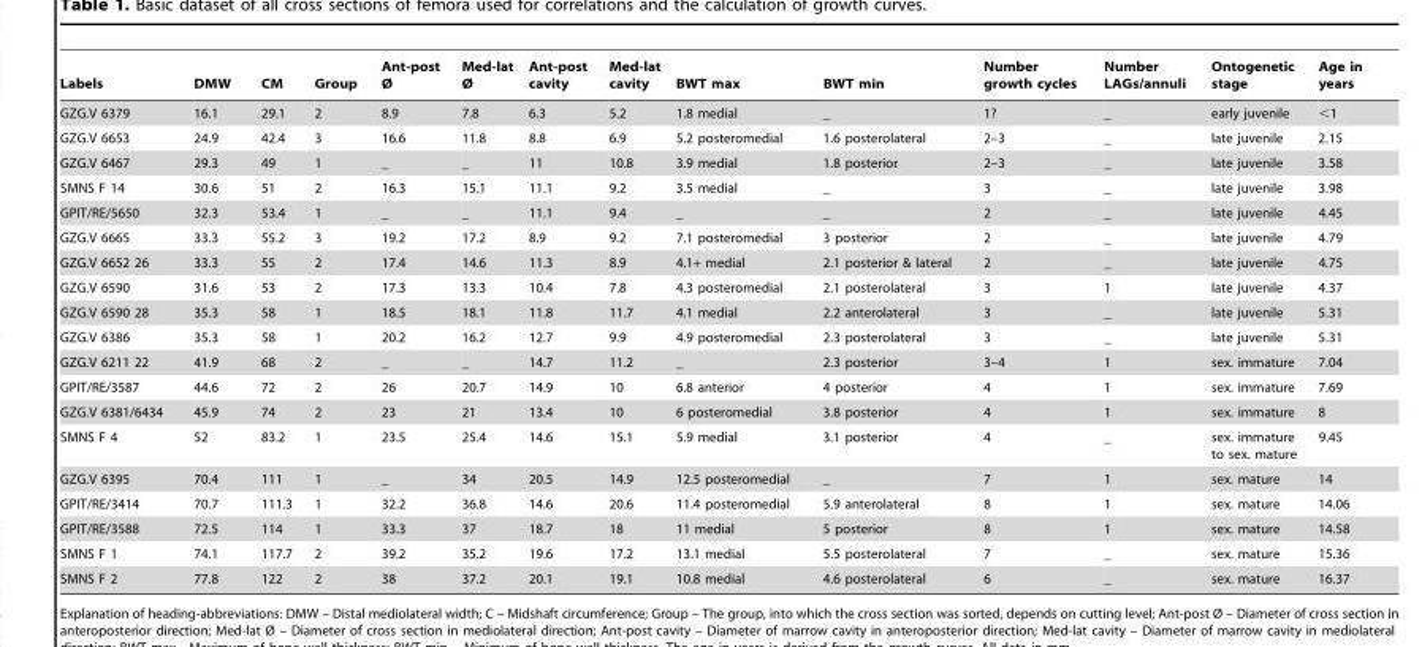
<table><thead><tr><td>Labels</td><td>DMW</td><td>CM</td><td>Group</td><td>Ant-post Ø</td><td>Med-lat Ø</td><td>Ant-post cavity</td><td>Med-lat cavity</td><td>BWT max</td><td>BWT min</td><td>Number growth cycles</td><td>Number LAGs/annuli</td><td>Ontogenetic stage</td><td>Age in years</td></tr></thead><tbody><tr><td>GZG.V 6379</td><td>16.1</td><td>29.1</td><td>2</td><td>8.9</td><td>7.8</td><td>6.3</td><td>5.2</td><td>1.8 medial</td><td>―</td><td>1?</td><td>―</td><td>early juvenile</td><td>&lt;1</td></tr><tr><td>GZG.V 6653</td><td>24.9</td><td>42.4</td><td>3</td><td>16.6</td><td>11.8</td><td>8.8</td><td>6.9</td><td>5.2 posteromedial</td><td>1.6 posterolateral</td><td>2–3</td><td>―</td><td>late juvenile</td><td>2.15</td></tr><tr><td>GZG.V 6467</td><td>29.3</td><td>49</td><td>1</td><td>―</td><td>―</td><td>11</td><td>10.8</td><td>3.9 medial</td><td>1.8 posterior</td><td>2–3</td><td>―</td><td>late juvenile</td><td>3.58</td></tr><tr><td>SMNS F 14</td><td>30.6</td><td>51</td><td>2</td><td>16.3</td><td>15.1</td><td>11.1</td><td>9.2</td><td>3.5 medial</td><td>―</td><td>3</td><td>―</td><td>late juvenile</td><td>3.98</td></tr><tr><td>GPIT/RE/5650</td><td>32.3</td><td>53.4</td><td>1</td><td>―</td><td>―</td><td>11.1</td><td>9.4</td><td>―</td><td>―</td><td>2</td><td>―</td><td>late juvenile</td><td>4.45</td></tr><tr><td>GZG.V 6665</td><td>33.3</td><td>55.2</td><td>3</td><td>19.2</td><td>17.2</td><td>8.9</td><td>9.2</td><td>7.1 posteromedial</td><td>3 posterior</td><td>2</td><td>―</td><td>late juvenile</td><td>4.79</td></tr><tr><td>GZG.V 6652 26</td><td>33.3</td><td>55</td><td>2</td><td>17.4</td><td>14.6</td><td>11.3</td><td>8.9</td><td>4.1+ medial</td><td>2.1 posterior &amp; lateral</td><td>2</td><td>―</td><td>late juvenile</td><td>4.75</td></tr><tr><td>GZG.V 6590</td><td>31.6</td><td>53</td><td>2</td><td>17.3</td><td>13.3</td><td>10.4</td><td>7.8</td><td>4.3 posteromedial</td><td>2.1 posterolateral</td><td>3</td><td>1</td><td>late juvenile</td><td>4.37</td></tr><tr><td>GZG.V 6590 28</td><td>35.3</td><td>58</td><td>1</td><td>18.5</td><td>18.1</td><td>11.8</td><td>11.7</td><td>4.1 medial</td><td>2.2 anterolateral</td><td>3</td><td>―</td><td>late juvenile</td><td>5.31</td></tr><tr><td>GZG.V 6386</td><td>35.3</td><td>58</td><td>1</td><td>20.2</td><td>16.2</td><td>12.7</td><td>9.9</td><td>4.9 posteromedial</td><td>2.3 posterolateral</td><td>3</td><td>―</td><td>late juvenile</td><td>5.31</td></tr><tr><td>GZG.V 6211 22</td><td>41.9</td><td>68</td><td>2</td><td>―</td><td>―</td><td>14.7</td><td>11.2</td><td>―</td><td>2.3 posterior</td><td>3–4</td><td>1</td><td>sex. immature</td><td>7.04</td></tr><tr><td>GPIT/RE/3587</td><td>44.6</td><td>72</td><td>2</td><td>26</td><td>20.7</td><td>14.9</td><td>10</td><td>6.8 anterior</td><td>4 posterior</td><td>4</td><td>1</td><td>sex. immature</td><td>7.69</td></tr><tr><td>GZG.V 6381/6434</td><td>45.9</td><td>74</td><td>2</td><td>23</td><td>21</td><td>13.4</td><td>10</td><td>6 posteromedial</td><td>3.8 posterior</td><td>4</td><td>1</td><td>sex. immature</td><td>8</td></tr><tr><td>SMNS F 4</td><td>52</td><td>83.2</td><td>1</td><td>23.5</td><td>25.4</td><td>14.6</td><td>15.1</td><td>5.9 medial</td><td>3.1 posterior</td><td>4</td><td>―</td><td>sex. immature to sex. mature</td><td>9.45</td></tr><tr><td>GZG.V 6395</td><td>70.4</td><td>111</td><td>1</td><td>―</td><td>34</td><td>20.5</td><td>14.9</td><td>12.5 posteromedial</td><td>―</td><td>7</td><td>1</td><td>sex. mature</td><td>14</td></tr><tr><td>GPIT/RE/3414</td><td>70.7</td><td>111.3</td><td>1</td><td>32.2</td><td>36.8</td><td>14.6</td><td>20.6</td><td>11.4 posteromedial</td><td>5.9 anterolateral</td><td>8</td><td>1</td><td>sex. mature</td><td>14.06</td></tr><tr><td>GPIT/RE/3588</td><td>72.5</td><td>114</td><td>1</td><td>33.3</td><td>37</td><td>18.7</td><td>18</td><td>11 medial</td><td>5 posterior</td><td>8</td><td>1</td><td>sex. mature</td><td>14.58</td></tr><tr><td>SMNS F 1</td><td>74.1</td><td>117.7</td><td>2</td><td>39.2</td><td>35.2</td><td>19.6</td><td>17.2</td><td>13.1 medial</td><td>5.5 posterolateral</td><td>7</td><td>―</td><td>sex. mature</td><td>15.36</td></tr><tr><td>SMNS F 2</td><td>77.8</td><td>122</td><td>2</td><td>38</td><td>37.2</td><td>20.1</td><td>19.1</td><td>10.8 medial</td><td>4.6 posterolateral</td><td>6</td><td>―</td><td>sex. mature</td><td>16.37</td></tr></tbody></table>